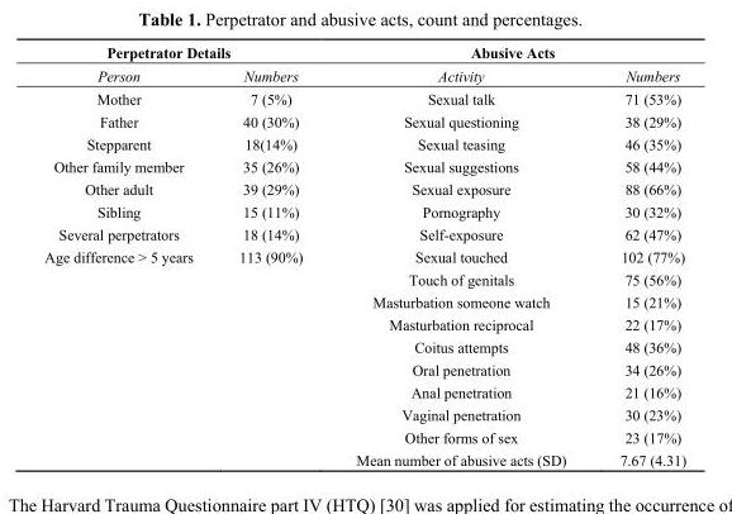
<table><thead><tr><td colspan="2">Perpetrator Details</td><td colspan="2">Abusive Acts</td></tr><tr><td>Person</td><td>Numbers</td><td>Activity</td><td>Numbers</td></tr></thead><tbody><tr><td>Mother</td><td>7 (5%)</td><td>Sexual talk</td><td>71 (53%)</td></tr><tr><td>Father</td><td>40 (30%)</td><td>Sexual questioning</td><td>38 (29%)</td></tr><tr><td>Stepparent</td><td>18(14%)</td><td>Sexual teasing</td><td>46 (35%)</td></tr><tr><td>Other family member</td><td>35 (26%)</td><td>Sexual suggestions</td><td>58 (44%)</td></tr><tr><td>Other adult</td><td>39 (29%)</td><td>Sexual exposure</td><td>88 (66%)</td></tr><tr><td>Sibling</td><td>15 (11%)</td><td>Pornography</td><td>30 (32%)</td></tr><tr><td>Several perpetrators</td><td>18 (14%)</td><td>Self-exposure</td><td>62 (47%)</td></tr><tr><td rowspan="10">Age difference &gt; 5 years</td><td>113 (90%)</td><td>Sexual touched</td><td>102 (77%)</td></tr><tr><td></td><td>Touch of genitals</td><td>75 (56%)</td></tr><tr><td></td><td>Masturbation someone watch</td><td>15 (21%)</td></tr><tr><td></td><td>Masturbation reciprocal</td><td>22 (17%)</td></tr><tr><td></td><td>Coitus attempts</td><td>48 (36%)</td></tr><tr><td></td><td>Oral penetration</td><td>34 (26%)</td></tr><tr><td></td><td>Anal penetration</td><td>21 (16%)</td></tr><tr><td></td><td>Vaginal penetration</td><td>30 (23%)</td></tr><tr><td></td><td>Other forms of sex</td><td>23 (17%)</td></tr><tr><td></td><td>Mean number of abusive acts (SD)</td><td>7.67 (4.31)</td></tr></tbody></table>